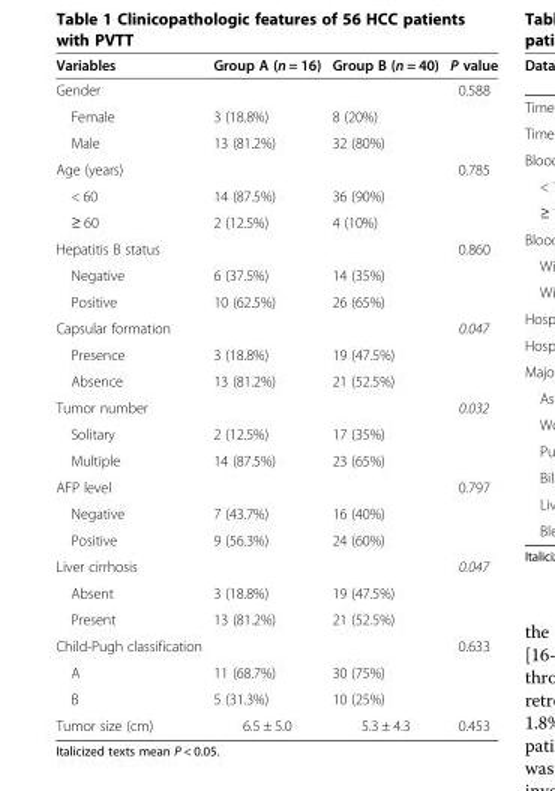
<table><thead><tr><td>Variables</td><td>Group A (n = 16)</td><td>Group B (n = 40)</td><td>P value</td></tr></thead><tbody><tr><td>Gender</td><td></td><td></td><td>0.588</td></tr><tr><td>Female</td><td>3 (18.8%)</td><td>8 (20%)</td><td></td></tr><tr><td>Male</td><td>13 (81.2%)</td><td>32 (80%)</td><td></td></tr><tr><td>Age (years)</td><td></td><td></td><td>0.785</td></tr><tr><td>&lt; 60</td><td>14 (87.5%)</td><td>36 (90%)</td><td></td></tr><tr><td>≥ 60</td><td>2 (12.5%)</td><td>4 (10%)</td><td></td></tr><tr><td>Hepatitis B status</td><td></td><td></td><td>0.860</td></tr><tr><td>Negative</td><td>6 (37.5%)</td><td>14 (35%)</td><td></td></tr><tr><td>Positive</td><td>10 (62.5%)</td><td>26 (65%)</td><td></td></tr><tr><td>Capsular formation</td><td></td><td></td><td>0.047</td></tr><tr><td>Presence</td><td>3 (18.8%)</td><td>19 (47.5%)</td><td></td></tr><tr><td>Absence</td><td>13 (81.2%)</td><td>21 (52.5%)</td><td></td></tr><tr><td>Tumor number</td><td></td><td></td><td>0.032</td></tr><tr><td>Solitary</td><td>2 (12.5%)</td><td>17 (35%)</td><td></td></tr><tr><td>Multiple</td><td>14 (87.5%)</td><td>23 (65%)</td><td></td></tr><tr><td>AFP level</td><td></td><td></td><td>0.797</td></tr><tr><td>Negative</td><td>7 (43.7%)</td><td>16 (40%)</td><td></td></tr><tr><td>Positive</td><td>9 (56.3%)</td><td>24 (60%)</td><td></td></tr><tr><td>Liver cirrhosis</td><td></td><td></td><td>0.047</td></tr><tr><td>Absent</td><td>3 (18.8%)</td><td>19 (47.5%)</td><td></td></tr><tr><td>Present</td><td>13 (81.2%)</td><td>21 (52.5%)</td><td></td></tr><tr><td>Child-Pugh classification</td><td></td><td></td><td>0.633</td></tr><tr><td>A</td><td>11 (68.7%)</td><td>30 (75%)</td><td></td></tr><tr><td>B</td><td>5 (31.3%)</td><td>10 (25%)</td><td></td></tr><tr><td>Tumor size (cm)</td><td>6.5 ± 5.0</td><td>5.3 ± 4.3</td><td>0.453</td></tr></tbody></table>